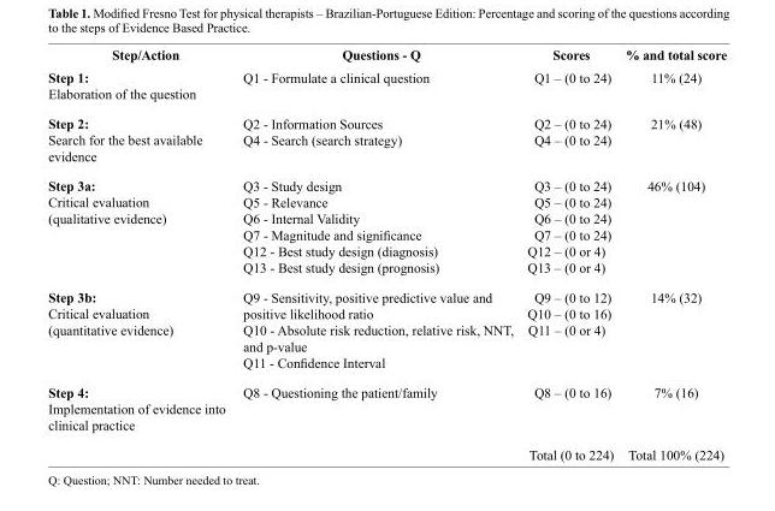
<table><thead><tr><td>Step/Action</td><td>Questions - Q</td><td>Scores</td><td>% and total score</td></tr></thead><tbody><tr><td>Step 1: Elaboration of the question</td><td>Q1 - Formulate a clinical question</td><td>Q1 – (0 to 24)</td><td>11% (24)</td></tr><tr><td>Step 2: Search for the best available evidence</td><td>Q2 - Information Sources Q4 - Search (search strategy)</td><td>Q2 – (0 to 24) Q4 – (0 to 24)</td><td>21% (48)</td></tr><tr><td>Step 3a: Critical evaluation (qualitative evidence)</td><td>Q3 - Study design Q5 - Relevance Q6 - Internal Validity Q7 - Magnitude and significance Q12 - Best study design (diagnosis) Q13 - Best study design (prognosis)</td><td>Q3 – (0 to 24) Q5 – (0 to 24) Q6 – (0 to 24) Q7 – (0 to 24) Q12 – (0 or 4) Q13 – (0 or 4)</td><td>46% (104)</td></tr><tr><td>Step 3b: Critical evaluation (quantitative evidence)</td><td>Q9 - Sensitivity, positive predictive value and positive likelihood ratio Q10 - Absolute risk reduction, relative risk, NNT, and p-value Q11 - Confidence Interval</td><td>Q9 – (0 to 12) Q10 – (0 to 16) Q11 – (0 or 4)</td><td>14% (32)</td></tr><tr><td rowspan="2">Step 4: Implementation of evidence into clinical practice</td><td>Q8 - Questioning the patient/family</td><td>Q8 – (0 to 16)</td><td>7% (16)</td></tr><tr><td></td><td>Total (0 to 224)</td><td>Total 100% (224)</td></tr></tbody></table>